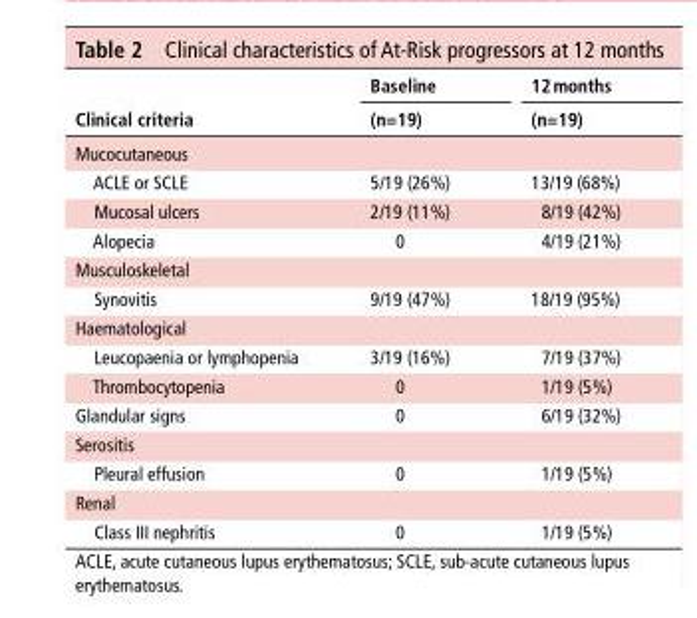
<table><thead><tr><td rowspan="2">Clinical criteria</td><td rowspan="2">baseline (n=19)</td><td rowspan="2">12 months (n=19)</td></tr><tr></tr></thead><tbody><tr><td colspan="3">Mucocutaneous</td></tr><tr><td>ACLE or SCLE</td><td>5/19 (26%)</td><td>13/19 (68%)</td></tr><tr><td>Mucosal ulcers</td><td>2/19 (11%)</td><td>8/19 (42%)</td></tr><tr><td>Alopecia</td><td>0</td><td>4/19 (21%)</td></tr><tr><td colspan="3">Musculoskeletal</td></tr><tr><td>Synovitis</td><td>9/19 (47%)</td><td>18/19 (95%)</td></tr><tr><td colspan="3">Haematological</td></tr><tr><td>Leucopaenia or lymphopenia</td><td>3/19 (16%)</td><td>7/19 (37%)</td></tr><tr><td>Thrombocytopenia</td><td>0</td><td>1/19 (5%)</td></tr><tr><td>Glandular signs</td><td>0</td><td>6/19 (32%)</td></tr><tr><td colspan="3">Serositis</td></tr><tr><td>Pleural effusion</td><td>0</td><td>1/19 (5%)</td></tr><tr><td colspan="3">Renal</td></tr><tr><td>Class III nephritis</td><td>0</td><td>1/19 (5%)</td></tr></tbody></table>